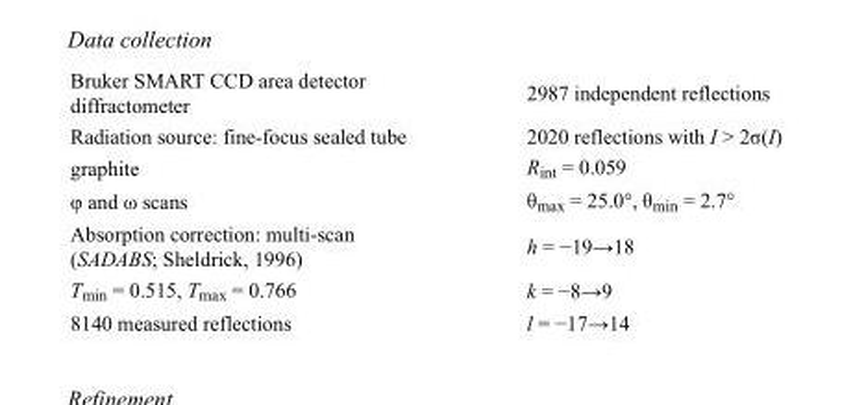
<table><tbody><tr><td>Bruker SMART CCD area detector diffractometer</td><td>2987 independent reflections</td></tr><tr><td>Radiation source: fine-focus sealed tube</td><td>2020 reflections with I &gt; 2σ(I)</td></tr><tr><td>graphite</td><td>R<sub>int</sub> = 0.059</td></tr><tr><td>φ and ω scans</td><td>θ<sub>max</sub> = 25.0°, θ<sub>min</sub> = 2.7°</td></tr><tr><td>Absorption correction: multi-scan (SADABS; Sheldrick, 1996)</td><td>h = −19→18</td></tr><tr><td>T<sub>min</sub> = 0.515, T<sub>max</sub> = 0.766</td><td>k = −8→9</td></tr><tr><td>8140 measured reflections</td><td>l = −17→14</td></tr></tbody></table>